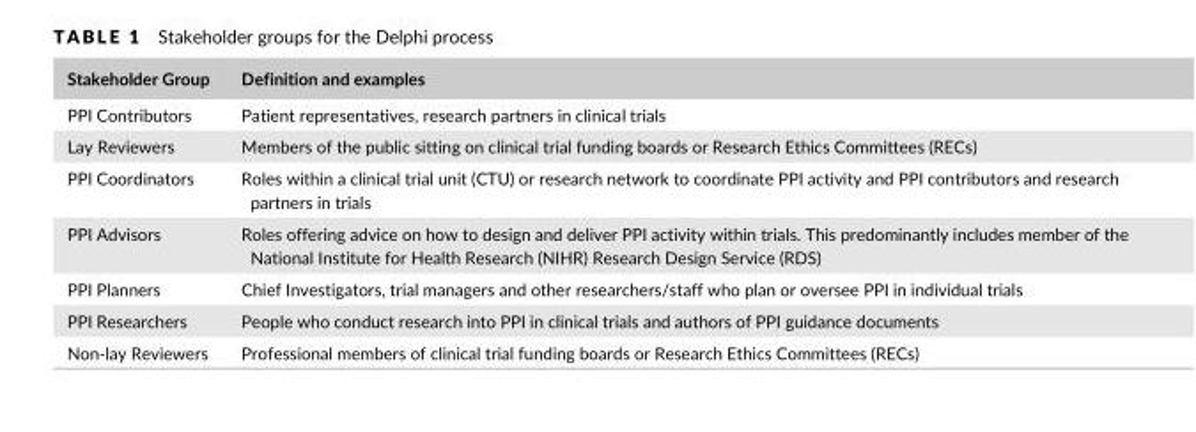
<table><thead><tr><td>Stakeholder Group</td><td>Definition and examples</td></tr></thead><tbody><tr><td>PPI Contributors</td><td>Patient representatives, research partners in clinical trials</td></tr><tr><td>Lay Reviewers</td><td>Members of the public sitting on clinical trial funding boards or Research Ethics Committees (RECs)</td></tr><tr><td>PPI Coordinators</td><td>Roles within a clinical trial unit (CTU) or research network to coordinate PPI activity and PPI contributors and research partners in trials</td></tr><tr><td>PPI Advisors</td><td>Roles offering advice on how to design and deliver PPI activity within trials. This predominantly includes member of the National Institute for Health Research (NIHR) Research Design Service (RDS)</td></tr><tr><td>PPI Planners</td><td>Chief Investigators, trial managers and other researchers/staff who plan or oversee PPI in individual trials</td></tr><tr><td>PPI Researchers</td><td>People who conduct research into PPI in clinical trials and authors of PPI guidance documents</td></tr><tr><td>Non- lay Reviewers</td><td>Professional members of clinical trial funding boards or Research Ethics Committees (RECs)</td></tr></tbody></table>